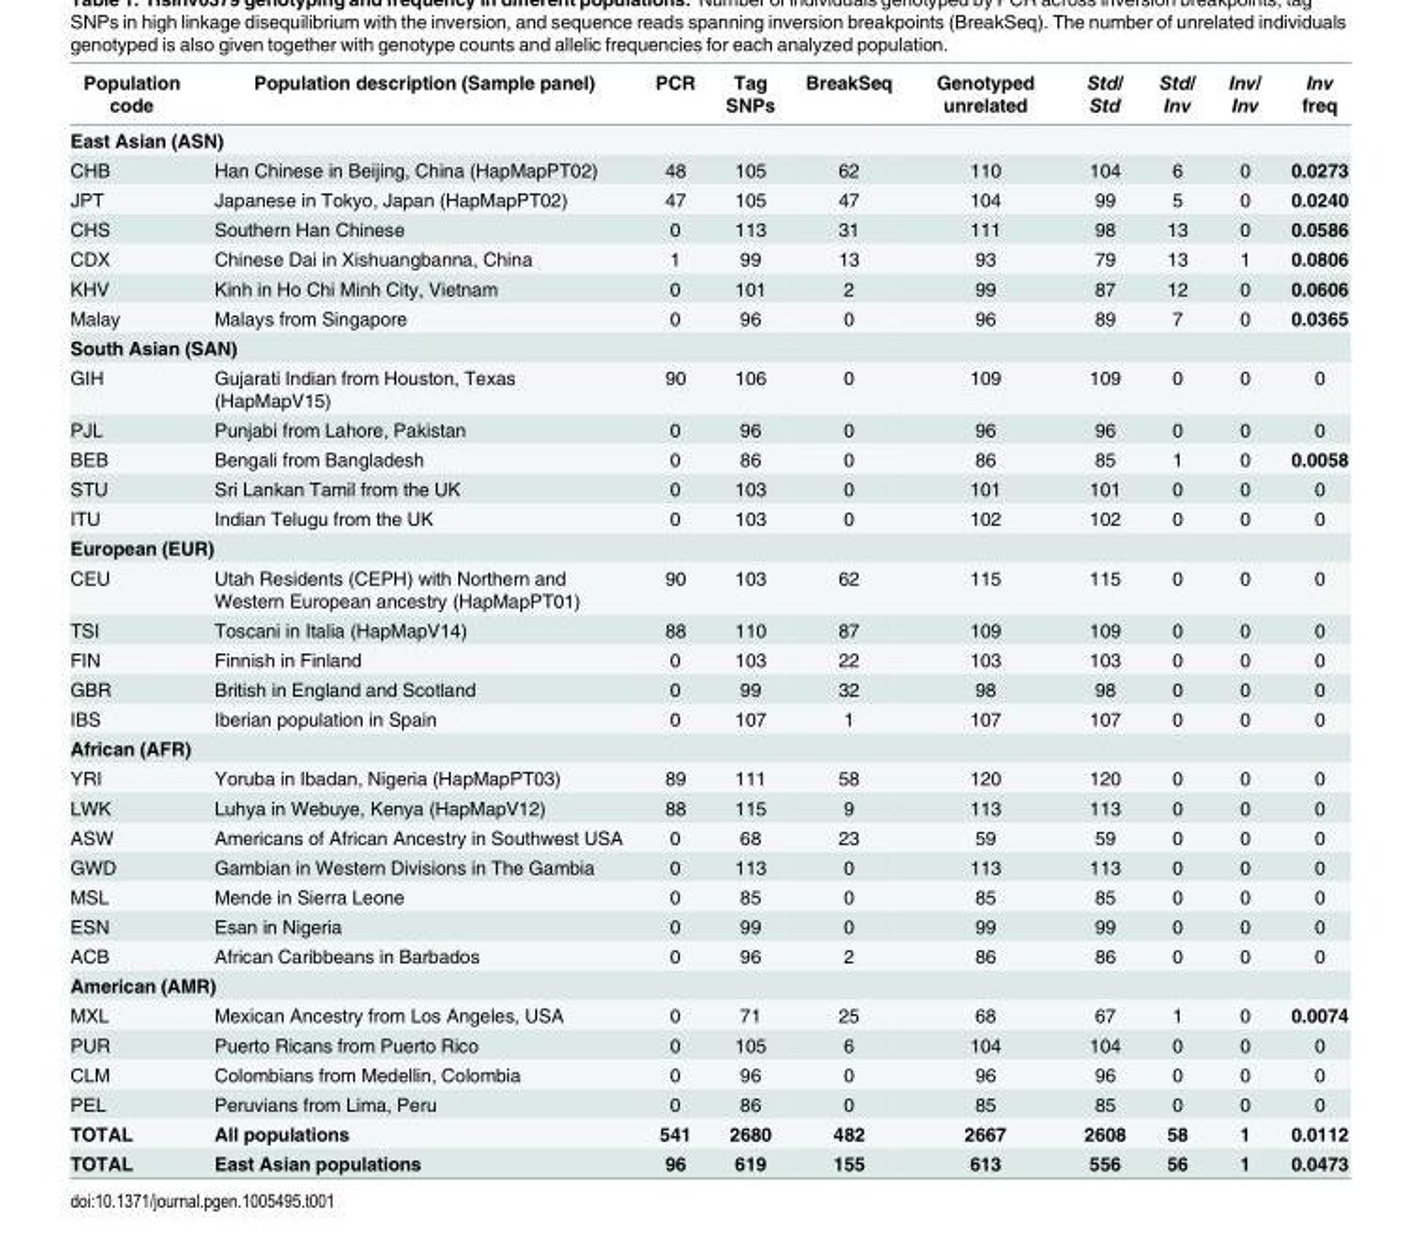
<table><thead><tr><td>Population code</td><td>Population description (Sample panel)</td><td>PCR</td><td>Tag SNPs</td><td>BreakSeq</td><td>Genotyped unrelated</td><td>Std/ Std</td><td>Std/ Inv</td><td>Inv/ Inv</td><td>Inv freq</td></tr></thead><tbody><tr><td colspan="10">East Asian (ASN)</td></tr><tr><td>CHB</td><td>Han Chinese in Beijing, China (HapMapPT02)</td><td>48</td><td>105</td><td>62</td><td>110</td><td>104</td><td>6</td><td>0</td><td>0.0273</td></tr><tr><td>JPT</td><td>Japanese in Tokyo, Japan (HapMapPT02)</td><td>47</td><td>105</td><td>47</td><td>104</td><td>99</td><td>5</td><td>0</td><td>0.0240</td></tr><tr><td>CHS</td><td>Southern Han Chinese</td><td>0</td><td>113</td><td>31</td><td>111</td><td>98</td><td>13</td><td>0</td><td>0.0586</td></tr><tr><td>CDX</td><td>Chinese Dai in Xishuangbanna, China</td><td>1</td><td>99</td><td>13</td><td>93</td><td>79</td><td>13</td><td>1</td><td>0.0806</td></tr><tr><td>KHV</td><td>Kinh in Ho Chi Minh City, Vietnam</td><td>0</td><td>101</td><td>2</td><td>99</td><td>87</td><td>12</td><td>0</td><td>0.0606</td></tr><tr><td>Malay</td><td>Malays from Singapore</td><td>0</td><td>96</td><td>0</td><td>96</td><td>89</td><td>7</td><td>0</td><td>0.0365</td></tr><tr><td colspan="10">South Asian (SAN)</td></tr><tr><td>GIH</td><td>Gujarati Indian from Houston, Texas (HapMapV15)</td><td>90</td><td>106</td><td>0</td><td>109</td><td>109</td><td>0</td><td>0</td><td>0</td></tr><tr><td>PJL</td><td>Punjabi from Lahore, Pakistan</td><td>0</td><td>96</td><td>0</td><td>96</td><td>96</td><td>0</td><td>0</td><td>0</td></tr><tr><td>BEB</td><td>Bengali from Bangladesh</td><td>0</td><td>86</td><td>0</td><td>86</td><td>85</td><td>1</td><td>0</td><td>0.0058</td></tr><tr><td>STU</td><td>Sri Lankan Tamil from the UK</td><td>0</td><td>103</td><td>0</td><td>101</td><td>101</td><td>0</td><td>0</td><td>0</td></tr><tr><td>ITU</td><td>Indian Telugu from the UK</td><td>0</td><td>103</td><td>0</td><td>102</td><td>102</td><td>0</td><td>0</td><td>0</td></tr><tr><td colspan="10">European (EUR)</td></tr><tr><td>CEU</td><td>Utah Residents (CEPH) with Northern and Western European ancestry (HapMapPT01)</td><td>90</td><td>103</td><td>62</td><td>115</td><td>115</td><td>0</td><td>0</td><td>0</td></tr><tr><td>TSI</td><td>Toscani in Italia (HapMapV14)</td><td>88</td><td>110</td><td>87</td><td>109</td><td>109</td><td>0</td><td>0</td><td>0</td></tr><tr><td>FIN</td><td>Finnish in Finland</td><td>0</td><td>103</td><td>22</td><td>103</td><td>103</td><td>0</td><td>0</td><td>0</td></tr><tr><td>GBR</td><td>British in England and Scotland</td><td>0</td><td>99</td><td>32</td><td>98</td><td>98</td><td>0</td><td>0</td><td>0</td></tr><tr><td>IBS</td><td>Iberian population in Spain</td><td>0</td><td>107</td><td>1</td><td>107</td><td>107</td><td>0</td><td>0</td><td>0</td></tr><tr><td colspan="10">African (AFR)</td></tr><tr><td>YRI</td><td>Yoruba in Ibadan, Nigeria (HapMapPT03)</td><td>89</td><td>111</td><td>58</td><td>120</td><td>120</td><td>0</td><td>0</td><td>0</td></tr><tr><td>LWK</td><td>Luhya in Webuye, Kenya (HapMapV12)</td><td>88</td><td>115</td><td>9</td><td>113</td><td>113</td><td>0</td><td>0</td><td>0</td></tr><tr><td>ASW</td><td>Americans of African Ancestry in Southwest USA</td><td>0</td><td>68</td><td>23</td><td>59</td><td>59</td><td>0</td><td>0</td><td>0</td></tr><tr><td>GWD</td><td>Gambian in Western Divisions in The Gambia</td><td>0</td><td>113</td><td>0</td><td>113</td><td>113</td><td>0</td><td>0</td><td>0</td></tr><tr><td>MSL</td><td>Mende in Sierra Leone</td><td>0</td><td>85</td><td>0</td><td>85</td><td>85</td><td>0</td><td>0</td><td>0</td></tr><tr><td>ESN</td><td>Esan in Nigeria</td><td>0</td><td>99</td><td>0</td><td>99</td><td>99</td><td>0</td><td>0</td><td>0</td></tr><tr><td>ACB</td><td>African Caribbeans in Barbados</td><td>0</td><td>96</td><td>2</td><td>86</td><td>86</td><td>0</td><td>0</td><td>0</td></tr><tr><td colspan="10">American (AMR)</td></tr><tr><td>MXL</td><td>Mexican Ancestry from Los Angeles, USA</td><td>0</td><td>71</td><td>25</td><td>68</td><td>67</td><td>1</td><td>0</td><td>0.0074</td></tr><tr><td>PUR</td><td>Puerto Ricans from Puerto Rico</td><td>0</td><td>105</td><td>6</td><td>104</td><td>104</td><td>0</td><td>0</td><td>0</td></tr><tr><td>CLM</td><td>Colombians from Medellin, Colombia</td><td>0</td><td>96</td><td>0</td><td>96</td><td>96</td><td>0</td><td>0</td><td>0</td></tr><tr><td>PEL</td><td>Peruvians from Lima, Peru</td><td>0</td><td>86</td><td>0</td><td>85</td><td>85</td><td>0</td><td>0</td><td>0</td></tr><tr><td>TOTAL</td><td>All populations</td><td>541</td><td>2680</td><td>482</td><td>2667</td><td>2608</td><td>58</td><td>1</td><td>0.0112</td></tr><tr><td>TOTAL</td><td>East Asian populations</td><td>96</td><td>619</td><td>155</td><td>613</td><td>556</td><td>56</td><td>1</td><td>0.0473</td></tr></tbody></table>